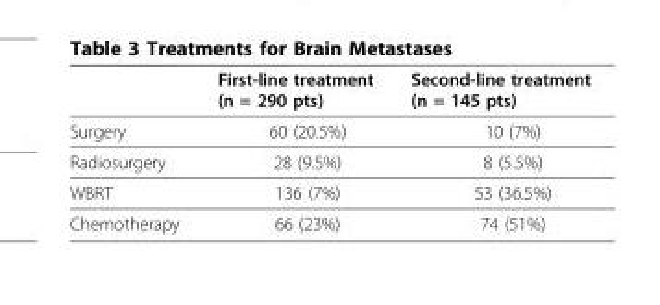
<table><thead><tr><td></td><td>First-line treatment (n = 290 pts)</td><td>Second-line treatment (n = 145 pts)</td></tr></thead><tbody><tr><td>Surgery</td><td>60 (20.5%)</td><td>10 (7%)</td></tr><tr><td>Radiosurgery</td><td>28 (9.5%)</td><td>8 (5.5%)</td></tr><tr><td>WBRT</td><td>136 (7%)</td><td>53 (36.5%)</td></tr><tr><td>Chemotherapy</td><td>66 (23%)</td><td>74 (51%)</td></tr></tbody></table>